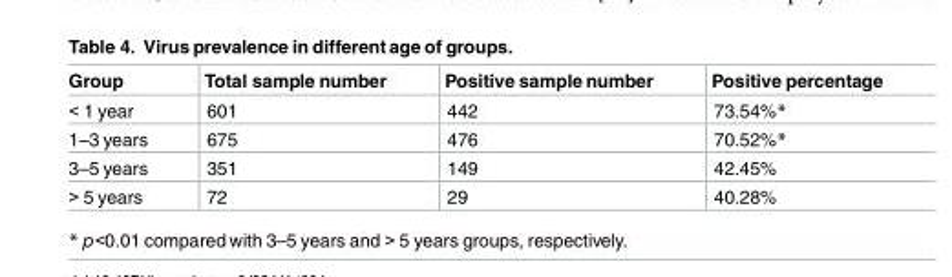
<table><thead><tr><td>Group</td><td>Total sample number</td><td>Positive sample number</td><td>Positive percentage</td></tr></thead><tbody><tr><td>&lt; 1 year</td><td>601</td><td>442</td><td>73.54%*</td></tr><tr><td>1–3 years</td><td>675</td><td>476</td><td>70.52%*</td></tr><tr><td>3–5 years</td><td>351</td><td>149</td><td>42.45%</td></tr><tr><td>&gt; 5 years</td><td>72</td><td>29</td><td>40.28%</td></tr></tbody></table>